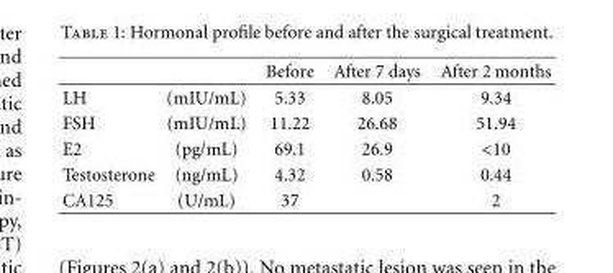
<table><thead><tr><td></td><td></td><td>Before</td><td>After 7 days</td><td>After 2 months</td></tr></thead><tbody><tr><td>LH</td><td>(mIU/mL)</td><td>5.33</td><td>8.05</td><td>9.34</td></tr><tr><td>FSH</td><td>(mIU/mL)</td><td>11.22</td><td>26.68</td><td>51.94</td></tr><tr><td>E2</td><td>(pg/mL)</td><td>69.1</td><td>26.9</td><td>&lt;10</td></tr><tr><td>Testosterone</td><td>(ng/mL)</td><td>4.32</td><td>0.58</td><td>0.44</td></tr><tr><td>CA125</td><td>(U/mL)</td><td>37</td><td></td><td>2</td></tr></tbody></table>